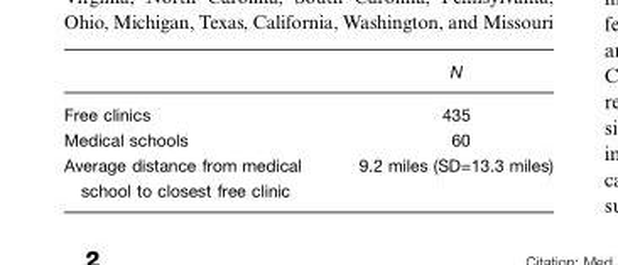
<table><thead><tr><td></td><td>N</td></tr></thead><tbody><tr><td>Free clinics</td><td>435</td></tr><tr><td>Medical schools</td><td>60</td></tr><tr><td>Average distance from medical school to closest free clinic</td><td>9.2 miles (SD=13.3 miles)</td></tr></tbody></table>